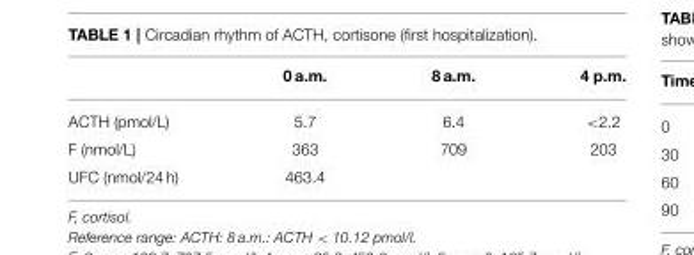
<table><thead><tr><td></td><td>0 a.m.</td><td>8 a.m.</td><td>4 p.m.</td></tr></thead><tbody><tr><td>ACTH (pmol/L)</td><td>5.7</td><td>6.4</td><td>&lt;2.2</td></tr><tr><td>F (nmol/L)</td><td>363</td><td>709</td><td>203</td></tr><tr><td>UFC (nmol/24 h)</td><td>463.4</td><td></td><td></td></tr></tbody></table>